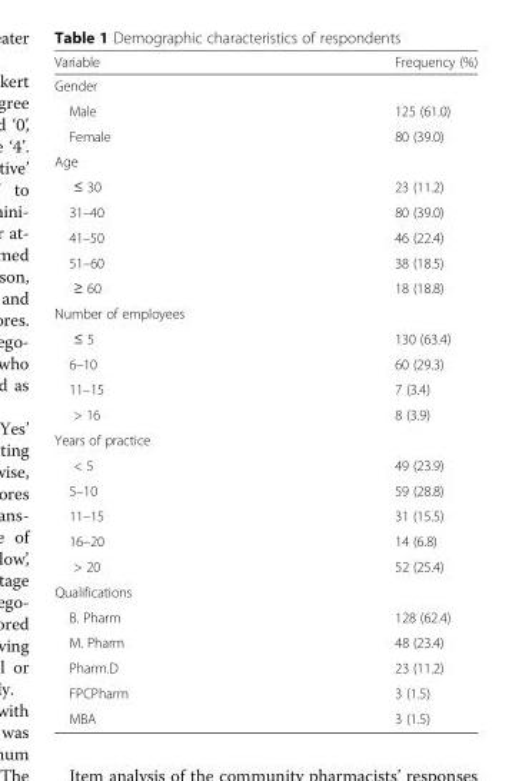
<table><thead><tr><td>Variable</td><td>Frequency (%)</td></tr></thead><tbody><tr><td colspan="2">Gender</td></tr><tr><td>Male</td><td>125 (61.0)</td></tr><tr><td>Female</td><td>80 (39.0)</td></tr><tr><td colspan="2">Age</td></tr><tr><td>≤ 30</td><td>23 (11.2)</td></tr><tr><td>31–40</td><td>80 (39.0)</td></tr><tr><td>41–50</td><td>46 (22.4)</td></tr><tr><td>51–60</td><td>38 (18.5)</td></tr><tr><td>≥ 60</td><td>18 (18.8)</td></tr><tr><td colspan="2">Number of employees</td></tr><tr><td>≤ 5</td><td>130 (63.4)</td></tr><tr><td>6–10</td><td>60 (29.3)</td></tr><tr><td>11–15</td><td>7 (3.4)</td></tr><tr><td>&gt; 16</td><td>8 (3.9)</td></tr><tr><td colspan="2">Years of practice</td></tr><tr><td>&lt; 5</td><td>49 (23.9)</td></tr><tr><td>5–10</td><td>59 (28.8)</td></tr><tr><td>11–15</td><td>31 (15.5)</td></tr><tr><td>16–20</td><td>14 (6.8)</td></tr><tr><td>&gt; 20</td><td>52 (25.4)</td></tr><tr><td colspan="2">Qualifications</td></tr><tr><td>B. Pharm</td><td>128 (62.4)</td></tr><tr><td>M. Pharm</td><td>48 (23.4)</td></tr><tr><td>Pharm.D</td><td>23 (11.2)</td></tr><tr><td>FPCPharm</td><td>3 (1.5)</td></tr><tr><td>MBA</td><td>3 (1.5)</td></tr></tbody></table>